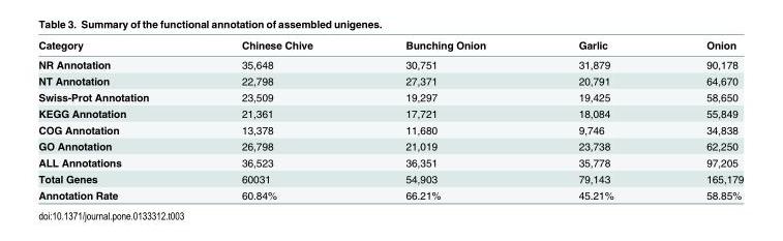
<table><thead><tr><td>Category</td><td>Chinese Chive</td><td>Bunching Onion</td><td>Garlic</td><td>Onion</td></tr></thead><tbody><tr><td>NR Annotation</td><td>35,648</td><td>30,751</td><td>31,879</td><td>90,178</td></tr><tr><td>NT Annotation</td><td>22,798</td><td>27,371</td><td>20,791</td><td>64,670</td></tr><tr><td>Swiss-Prot Annotation</td><td>23,509</td><td>19,297</td><td>19,425</td><td>58,650</td></tr><tr><td>KEGG Annotation</td><td>21,361</td><td>17,721</td><td>18,084</td><td>55,849</td></tr><tr><td>COG Annotation</td><td>13,378</td><td>11,680</td><td>9,746</td><td>34,838</td></tr><tr><td>GO Annotation</td><td>26,798</td><td>21,019</td><td>23,738</td><td>62,250</td></tr><tr><td>ALL Annotations</td><td>36,523</td><td>36,351</td><td>35,778</td><td>97,205</td></tr><tr><td>Total Genes</td><td>60031</td><td>54,903</td><td>79,143</td><td>165,179</td></tr><tr><td>Annotation Rate</td><td>60.84%</td><td>66.21%</td><td>45.21%</td><td>58.85%</td></tr></tbody></table>